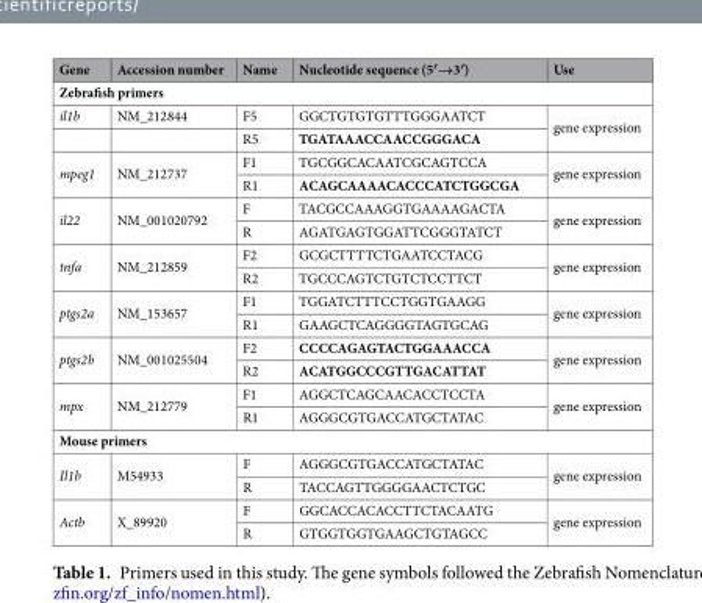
<table><thead><tr><td>Gene</td><td>Accession number</td><td>Name</td><td>Nucleotide sequence (5′→3′)</td><td>Use</td></tr></thead><tbody><tr><td colspan="5">Zebrafish primers</td></tr><tr><td rowspan="2">il1b</td><td>NM_212844</td><td>F5</td><td>GGCTGTGTGTTTGGGAATCT</td><td rowspan="2">gene expression</td></tr><tr><td></td><td>R5</td><td>TGATAAACCAACCGGGACA</td></tr><tr><td rowspan="2">mpeg1</td><td rowspan="2">NM_212737</td><td>F1</td><td>TGCGGCACAATCGCAGTCCA</td><td rowspan="2">gene expression</td></tr><tr><td>R1</td><td>ACAGCAAAACACCCATCTGGCGA</td></tr><tr><td rowspan="2">il22</td><td rowspan="2">NM_001020792</td><td>F</td><td>TACGCCAAAGGTGAAAAGACTA</td><td rowspan="2">gene expression</td></tr><tr><td>R</td><td>AGATGAGTGGATTCGGGTATCT</td></tr><tr><td rowspan="2">tnfa</td><td rowspan="2">NM_212859</td><td>F2</td><td>GCGCTTTTCTGAATCCTACG</td><td rowspan="2">gene expression</td></tr><tr><td>R2</td><td>TGCCCAGTCTGTCTCCTTCT</td></tr><tr><td rowspan="2">ptgs2a</td><td rowspan="2">NM_153657</td><td>F1</td><td>TGGATCTTTCCTGGTGAAGG</td><td rowspan="2">gene expression</td></tr><tr><td>R1</td><td>GAAGCTCAGGGGTAGTGCAG</td></tr><tr><td rowspan="2">ptgs2b</td><td rowspan="2">NM_001025504</td><td>F2</td><td>CCCCAGAGTACTGGAAACCA</td><td rowspan="2">gene expression</td></tr><tr><td>R2</td><td>ACATGGCCCGTTGACATTAT</td></tr><tr><td rowspan="2">mpx</td><td rowspan="2">NM_212779</td><td>F1</td><td>AGGCTCAGCAACACCTCCTA</td><td rowspan="2">gene expression</td></tr><tr><td>R1</td><td>AGGGCGTGACCATGCTATAC</td></tr><tr><td colspan="5">Mouse primers</td></tr><tr><td rowspan="2">Il1b</td><td rowspan="2">M54933</td><td>F</td><td>AGGGCGTGACCATGCTATAC</td><td rowspan="2">gene expression</td></tr><tr><td>R</td><td>TACCAGTTGGGGAACTCTGC</td></tr><tr><td rowspan="2">Actb</td><td rowspan="2">X_89920</td><td>F</td><td>GGCACCACACCTTCTACAATG</td><td rowspan="2">gene expression</td></tr><tr><td>R</td><td>GTGGTGGTGAAGCTGTAGCC</td></tr></tbody></table>